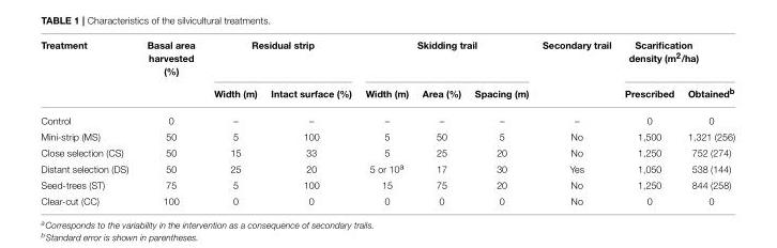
<table><thead><tr><td rowspan="2">Treatment</td><td rowspan="2">Basal area harvested (%)</td><td colspan="2">Residual strip</td><td colspan="3">Skidding trail</td><td rowspan="2">Secondary trail</td><td colspan="2">Scarification density (m<sup>2</sup>/ha)</td></tr><tr><td>Width (m)</td><td>Intact surface (%)</td><td>Width (m)</td><td>Area (%)</td><td>Spacing (m)</td><td>Prescribed</td><td>Obtained<sup>b</sup></td></tr></thead><tbody><tr><td>Control</td><td>0</td><td>–</td><td>–</td><td>–</td><td>–</td><td>–</td><td>–</td><td>0</td><td>0</td></tr><tr><td>Mini-strip (MS)</td><td>50</td><td>5</td><td>100</td><td>5</td><td>50</td><td>5</td><td>No</td><td>1,500</td><td>1,321 (256)</td></tr><tr><td>Close selection (CS)</td><td>50</td><td>15</td><td>33</td><td>5</td><td>25</td><td>20</td><td>No</td><td>1,250</td><td>752 (274)</td></tr><tr><td>Distant selection (DS)</td><td>50</td><td>25</td><td>20</td><td>5 or 10<sup>a</sup></td><td>17</td><td>30</td><td>Yes</td><td>1,050</td><td>538 (144)</td></tr><tr><td>Seed-trees (ST)</td><td>75</td><td>5</td><td>100</td><td>15</td><td>75</td><td>20</td><td>No</td><td>1,250</td><td>844 (258)</td></tr><tr><td>Clear-cut (CC)</td><td>100</td><td>0</td><td>0</td><td>0</td><td>0</td><td>0</td><td>No</td><td>0</td><td>0</td></tr></tbody></table>